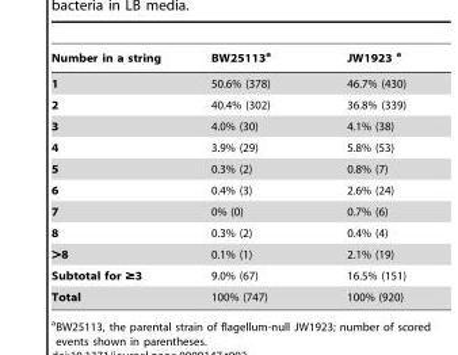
<table><thead><tr><td>Number in a string</td><td>BW25113<sup>a</sup></td><td>JW1923 a</td></tr></thead><tbody><tr><td>1</td><td>50.6% (378)</td><td>46.7% (430)</td></tr><tr><td>2</td><td>40.4% (302)</td><td>36.8% (339)</td></tr><tr><td>3</td><td>4.0% (30)</td><td>4.1% (38)</td></tr><tr><td>4</td><td>3.9% (29)</td><td>5.8% (53)</td></tr><tr><td>5</td><td>0.3% (2)</td><td>0.8% (7)</td></tr><tr><td>6</td><td>0.4% (3)</td><td>2.6% (24)</td></tr><tr><td>7</td><td>0% (0)</td><td>0.7% (6)</td></tr><tr><td>8</td><td>0.3% (2)</td><td>0.4% (4)</td></tr><tr><td>&gt;8</td><td>0.1% (1)</td><td>2.1% (19)</td></tr><tr><td>Subtotal for ≥3</td><td>9.0% (67)</td><td>16.5% (151)</td></tr><tr><td>Total</td><td>100% (747)</td><td>100% (920)</td></tr></tbody></table>